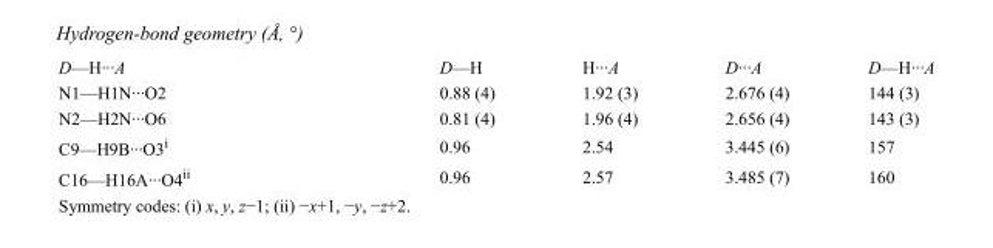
<table><tbody><tr><td>D—H···A</td><td>D—H</td><td>H···A</td><td>D···A</td><td>D—H···A</td></tr><tr><td>N1—H1N···O2</td><td>0.88 (4)</td><td>1.92 (3)</td><td>2.676 (4)</td><td>144 (3)</td></tr><tr><td>N2—H2N···O6</td><td>0.81 (4)</td><td>1.96 (4)</td><td>2.656 (4)</td><td>143 (3)</td></tr><tr><td>C9—H9B···O3<sup>i</sup></td><td>0.96</td><td>2.54</td><td>3.445 (6)</td><td>157</td></tr><tr><td>C16—H16A···O4<sup>ii</sup></td><td>0.96</td><td>2.57</td><td>3.485 (7)</td><td>160</td></tr></tbody></table>